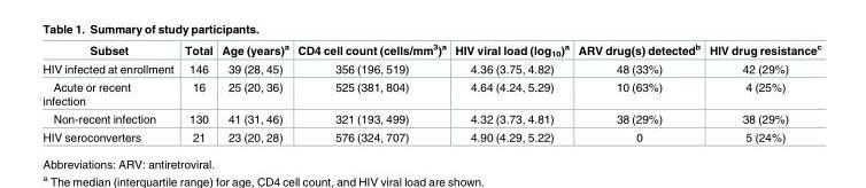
<table><thead><tr><td>Subset</td><td>Total</td><td>Age (years)<sup>a</sup></td><td>CD4 cell count (cells/mm<sup>3</sup>)<sup>a</sup></td><td>HIV viral load (log<sub>10</sub>)<sup>a</sup></td><td>ARV drug(s) detected<sup>b</sup></td><td>HIV drug resistance<sup>c</sup></td></tr></thead><tbody><tr><td>HIV infected at enrollment</td><td>146</td><td>39 (28, 45)</td><td>356 (196, 519)</td><td>4.36 (3.75, 4.82)</td><td>48 (33%)</td><td>42 (29%)</td></tr><tr><td>Acute or recent infection</td><td>16</td><td>25 (20, 36)</td><td>525 (381, 804)</td><td>4.64 (4.24, 5.29)</td><td>10 (63%)</td><td>4 (25%)</td></tr><tr><td>Non-recent infection</td><td>130</td><td>41 (31, 46)</td><td>321 (193, 499)</td><td>4.32 (3.73, 4.81)</td><td>38 (29%)</td><td>38 (29%)</td></tr><tr><td>HIV seroconverters</td><td>21</td><td>23 (20, 28)</td><td>576 (324, 707)</td><td>4.90 (4.29, 5.22)</td><td>0</td><td>5 (24%)</td></tr></tbody></table>